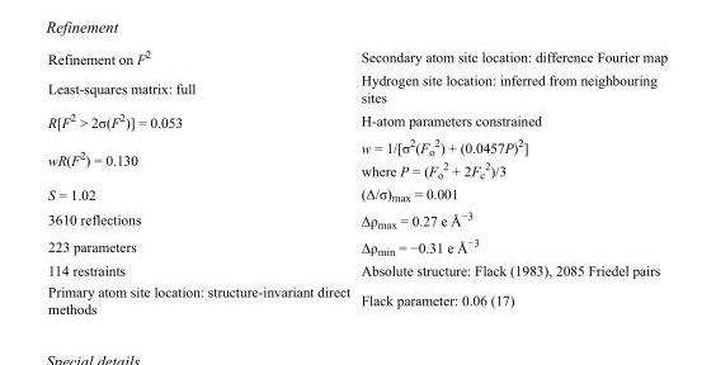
<table><tbody><tr><td>Refinement on F<sup>2</sup></td><td>Secondary atom site location: difference Fourier map</td></tr><tr><td>Least-squares matrix: full</td><td>Hydrogen site location: inferred from neighbouring sites</td></tr><tr><td>R[F<sup>2</sup> &gt; 2σ(F<sup>2</sup>)] = 0.053</td><td>H-atom parameters constrained</td></tr><tr><td>wR(F<sup>2</sup>) = 0.130</td><td>w = 1/[σ<sup>2</sup>(F<sub>o</sub> <sup>2</sup>) + (0.0457P)<sup>2</sup>] where P = (F<sub>o</sub> <sup>2</sup> + 2F<sub>c</sub> <sup>2</sup>)/3</td></tr><tr><td>S = 1.02</td><td>(Δ/σ)<sub>max</sub> = 0.001</td></tr><tr><td>3610 reflections</td><td>Δρ<sub>max</sub> = 0.27 e Å<sup>−3</sup></td></tr><tr><td>223 parameters</td><td>Δρ<sub>min</sub> = −0.31 e Å<sup>−3</sup></td></tr><tr><td>114 restraints</td><td>Absolute structure: Flack (1983), 2085 Friedel pairs</td></tr><tr><td>Primary atom site location: structure-invariant direct methods</td><td>Flack parameter: 0.06 (17)</td></tr></tbody></table>